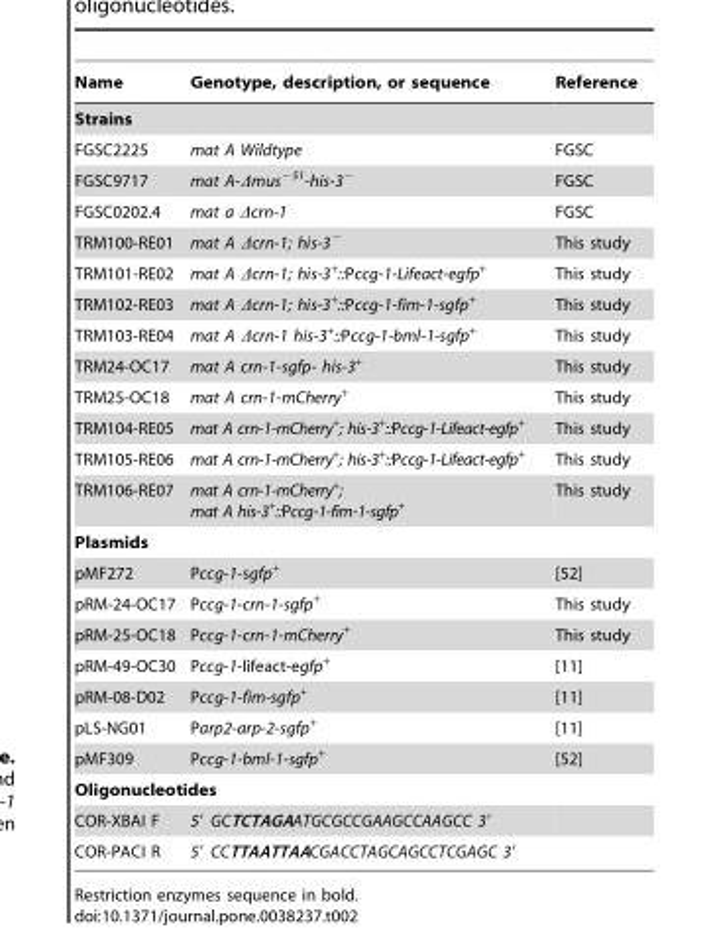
<table><thead><tr><td>Name</td><td>Genotype, description, or sequence</td><td>Reference</td></tr></thead><tbody><tr><td colspan="3">Strains</td></tr><tr><td>FGSC2225</td><td>mat A Wildtype</td><td>FGSC</td></tr><tr><td>FGSC9717</td><td>mat A-Δmus<sup>−51</sup>-his-3<sup>−</sup></td><td>FGSC</td></tr><tr><td>FGSC0202.4</td><td>mat a Δcrn-1</td><td>FGSC</td></tr><tr><td>TRM100-RE01</td><td>mat A Δcrn-1; his-3<sup>−</sup></td><td>This study</td></tr><tr><td>TRM101-RE02</td><td>mat A Δcrn-1; his-3<sup>+</sup>::Pccg-1-Lifeact-egfp<sup>+</sup></td><td>This study</td></tr><tr><td>TRM102-RE03</td><td>mat A Δcrn-1; his-3<sup>+</sup>::Pccg-1-fim-1-sgfp<sup>+</sup></td><td>This study</td></tr><tr><td>TRM103-RE04</td><td>mat A Δcrn-1 his-3<sup>+</sup>::Pccg-1-bml-1-sgfp<sup>+</sup></td><td>This study</td></tr><tr><td>TRM24-OC17</td><td>mat A crn-1-sgfp- his-3<sup>+</sup></td><td>This study</td></tr><tr><td>TRM25-OC18</td><td>mat A crn-1-mCherry<sup>+</sup></td><td>This study</td></tr><tr><td>TRM104-RE05</td><td>mat A crn-1-mCherry<sup>+</sup>; his-3<sup>+</sup>::Pccg-1-Lifeact-egfp<sup>+</sup></td><td>This study</td></tr><tr><td>TRM105-RE06</td><td>mat A crn-1-mCherry<sup>+</sup>; his-3<sup>+</sup>::Pccg-1-Lifeact-egfp<sup>+</sup></td><td>This study</td></tr><tr><td>TRM106-RE07</td><td>mat A crn-1-mCherry<sup>+</sup>; mat A his-3<sup>+</sup>::Pccg-1-fim-1-sgfp<sup>+</sup></td><td>This study</td></tr><tr><td colspan="3">Plasmids</td></tr><tr><td>pMF272</td><td>Pccg-1-sgfp<sup>+</sup></td><td>[52]</td></tr><tr><td>pRM-24-OC17</td><td>Pccg-1-crn-1-sgfp<sup>+</sup></td><td>This study</td></tr><tr><td>pRM-25-OC18</td><td>Pccg-1-crn-1-mCherry<sup>+</sup></td><td>This study</td></tr><tr><td>pRM-49-OC30</td><td>Pccg-1-lifeact-egfp<sup>+</sup></td><td>[11]</td></tr><tr><td>pRM-08-D02</td><td>Pccg-1-fim-sgfp<sup>+</sup></td><td>[11]</td></tr><tr><td>pLS-NG01</td><td>Parp2-arp-2-sgfp<sup>+</sup></td><td>[11]</td></tr><tr><td>pMF309</td><td>Pccg-1-bml-1-sgfp<sup>+</sup></td><td>[52]</td></tr><tr><td colspan="3">Oligonucleotides</td></tr><tr><td>COR-XBAI F</td><td>5′ GCTCTAGAATGCGCCGAAGCCAAGCC 3′</td><td></td></tr><tr><td>COR-PACI R</td><td>5′ CCTTAATTAACGACCTAGCAGCCTCGAGC 3′</td><td></td></tr></tbody></table>